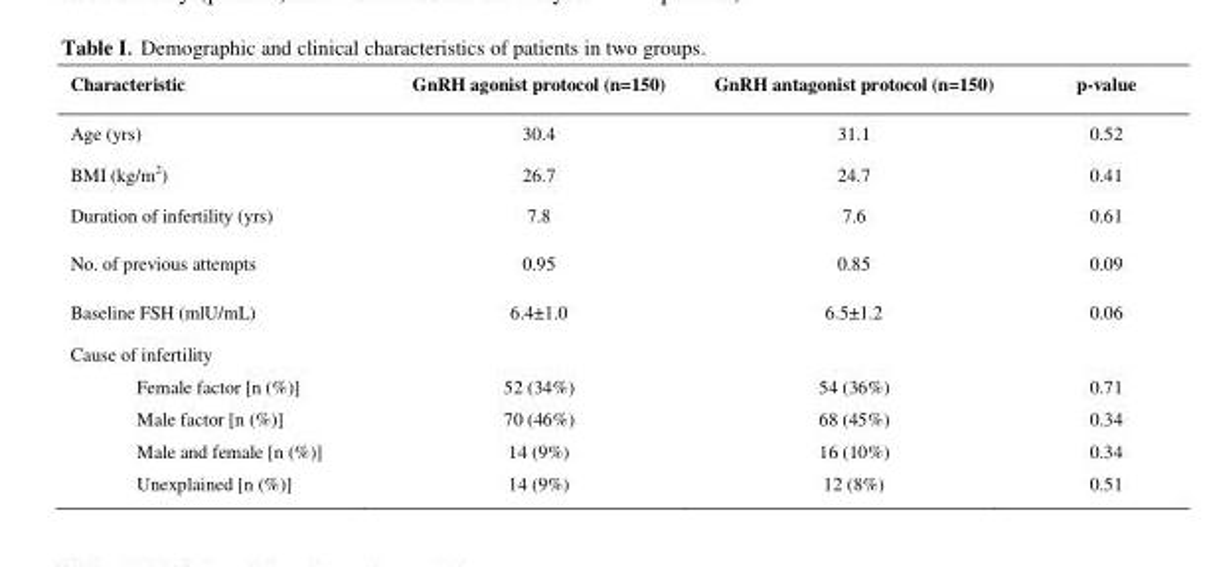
<table><thead><tr><td>Characteristic</td><td>GnRH agonist protocol (n=150)</td><td>GnRH antagonist protocol (n=150)</td><td>p-value</td></tr></thead><tbody><tr><td>Age (yrs)</td><td>30.4</td><td>31.1</td><td>0.52</td></tr><tr><td>BMI (kg/m<sup>2</sup>)</td><td>26.7</td><td>24.7</td><td>0.41</td></tr><tr><td>Duration of infertility (yrs)</td><td>7.8</td><td>7.6</td><td>0.61</td></tr><tr><td>No. of previous attempts</td><td>0.95</td><td>0.85</td><td>0.09</td></tr><tr><td>Baseline FSH (mlU/mL)</td><td>6.4±1.0</td><td>6.5±1.2</td><td>0.06</td></tr><tr><td>Cause of infertility Female factor [n (%)] Male factor [n (%)] Male and female [n (%)] Unexplained [n (%)]</td><td>52 (34%) 70 (46%) 14 (9%) 14 (9%)</td><td>54 (36%) 68 (45%) 16 (10%) 12 (8%)</td><td>0.71 0.34 0.34 0.51</td></tr></tbody></table>